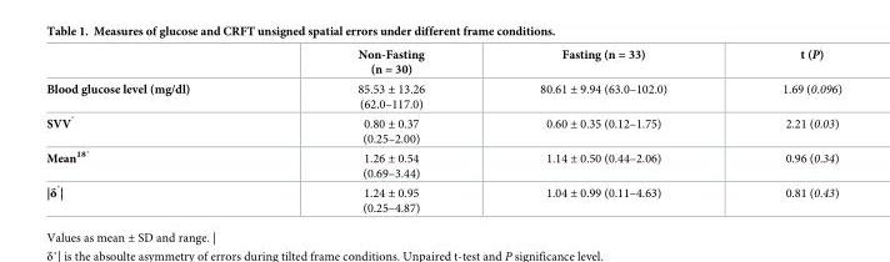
<table><thead><tr><td></td><td>Non-Fasting (n = 30)</td><td>Fasting (n = 33)</td><td>t (P)</td></tr></thead><tbody><tr><td>Blood glucose level (mg/dl)</td><td>85.53 ± 13.26 (62.0–117.0)</td><td>80.61 ± 9.94 (63.0–102.0)</td><td>1.69 (0.096)</td></tr><tr><td>SVV˚</td><td>0.80 ± 0.37 (0.25–2.00)</td><td>0.60 ± 0.35 (0.12–1.75)</td><td>2.21 (0.03)</td></tr><tr><td>Mean18˚</td><td>1.26 ± 0.54 (0.69–3.44)</td><td>1.14 ± 0.50 (0.44–2.06)</td><td>0.96 (0.34)</td></tr><tr><td>|δ˚|</td><td>1.24 ± 0.95 (0.25–4.87)</td><td>1.04 ± 0.99 (0.11–4.63)</td><td>0.81 (0.43)</td></tr></tbody></table>